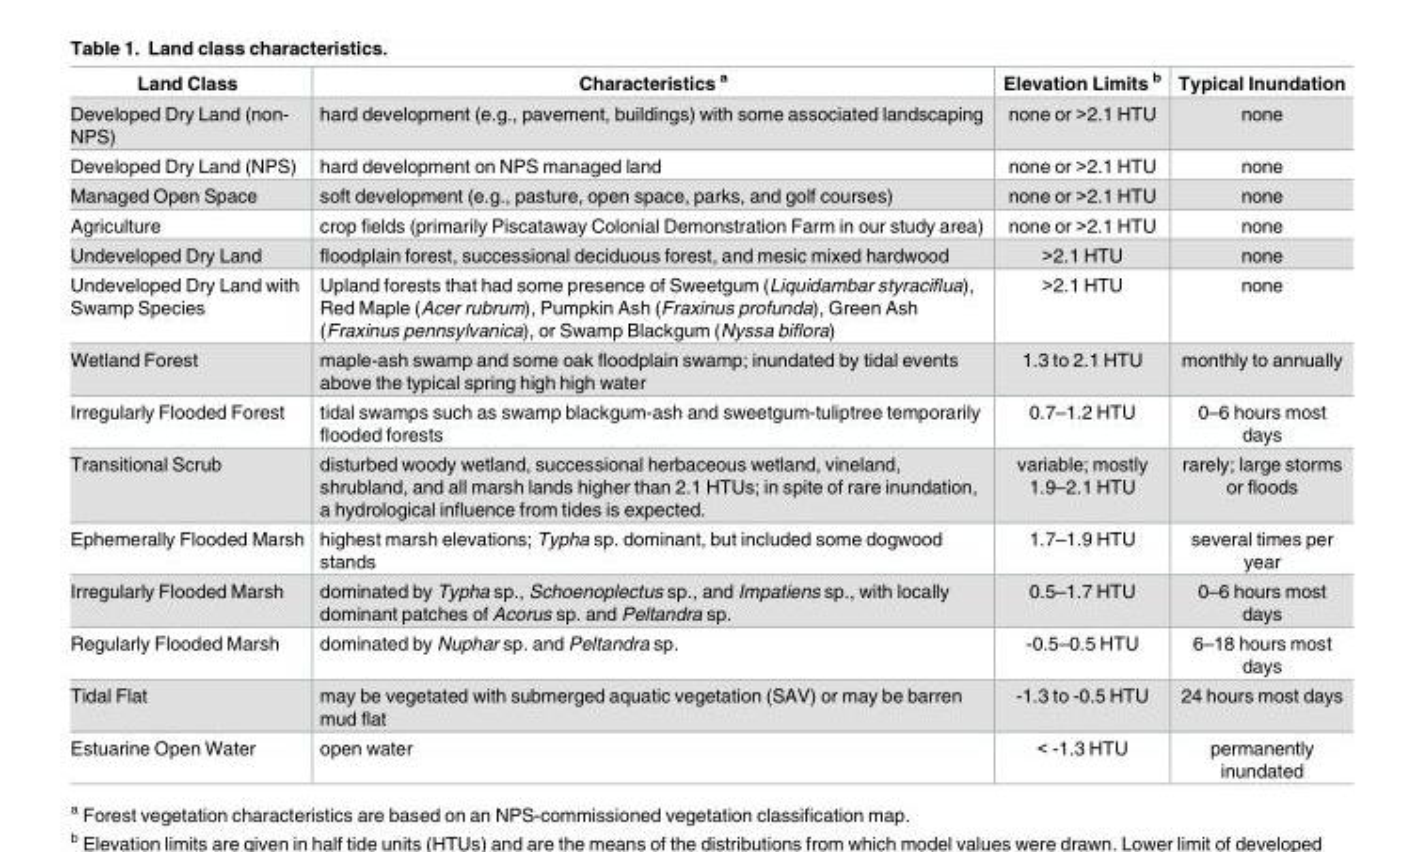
<table><thead><tr><td>Land Class</td><td>Characteristics <sup>a</sup></td><td>Elevation Limits <sup>b</sup></td><td>Typical Inundation</td></tr></thead><tbody><tr><td>Developed Dry Land (non- NPS)</td><td>hard development (e.g., pavement, buildings) with some associated landscaping</td><td>none or &gt;2.1 HTU</td><td>none</td></tr><tr><td>Developed Dry Land (NPS)</td><td>hard development on NPS managed land</td><td>none or &gt;2.1 HTU</td><td>none</td></tr><tr><td>Managed Open Space</td><td>soft development (e.g., pasture, open space, parks, and golf courses)</td><td>none or &gt;2.1 HTU</td><td>none</td></tr><tr><td>Agriculture</td><td>crop fields (primarily Piscataway Colonial Demonstration Farm in our study area)</td><td>none or &gt;2.1 HTU</td><td>none</td></tr><tr><td>Undeveloped Dry Land</td><td>floodplain forest, successional deciduous forest, and mesic mixed hardwood</td><td>&gt;2.1 HTU</td><td>none</td></tr><tr><td>Undeveloped Dry Land with Swamp Species</td><td>Upland forests that had some presence of Sweetgum (Liquidambar styraciflua), Red Maple (Acer rubrum), Pumpkin Ash (Fraxinus profunda), Green Ash (Fraxinus pennsylvanica), or Swamp Blackgum (Nyssa biflora)</td><td>&gt;2.1 HTU</td><td>none</td></tr><tr><td>Wetland Forest</td><td>maple-ash swamp and some oak floodplain swamp; inundated by tidal events above the typical spring high high water</td><td>1.3 to 2.1 HTU</td><td>monthly to annually</td></tr><tr><td>Irregularly Flooded Forest</td><td>tidal swamps such as swamp blackgum-ash and sweetgum-tuliptree temporarily flooded forests</td><td>0.7–1.2 HTU</td><td>0–6 hours most days</td></tr><tr><td>Transitional Scrub</td><td>disturbed woody wetland, successional herbaceous wetland, vineland, shrubland, and all marsh lands higher than 2.1 HTUs; in spite of rare inundation, a hydrological influence from tides is expected.</td><td>variable; mostly 1.9–2.1 HTU</td><td>rarely; large storms or floods</td></tr><tr><td>Ephemerally Flooded Marsh</td><td>highest marsh elevations; Typha sp. dominant, but included some dogwood stands</td><td>1.7–1.9 HTU</td><td>several times per year</td></tr><tr><td>Irregularly Flooded Marsh</td><td>dominated by Typha sp., Schoenoplectus sp., and Impatiens sp., with locally dominant patches of Acorus sp. and Peltandra sp.</td><td>0.5–1.7 HTU</td><td>0–6 hours most days</td></tr><tr><td>Regularly Flooded Marsh</td><td>dominated by Nuphar sp. and Peltandra sp.</td><td>-0.5–0.5 HTU</td><td>6–18 hours most days</td></tr><tr><td>Tidal Flat</td><td>may be vegetated with submerged aquatic vegetation (SAV) or may be barren mud flat</td><td>-1.3 to -0.5 HTU</td><td>24 hours most days</td></tr><tr><td>Estuarine Open Water</td><td>open water</td><td>&lt; -1.3 HTU</td><td>permanently inundated</td></tr></tbody></table>